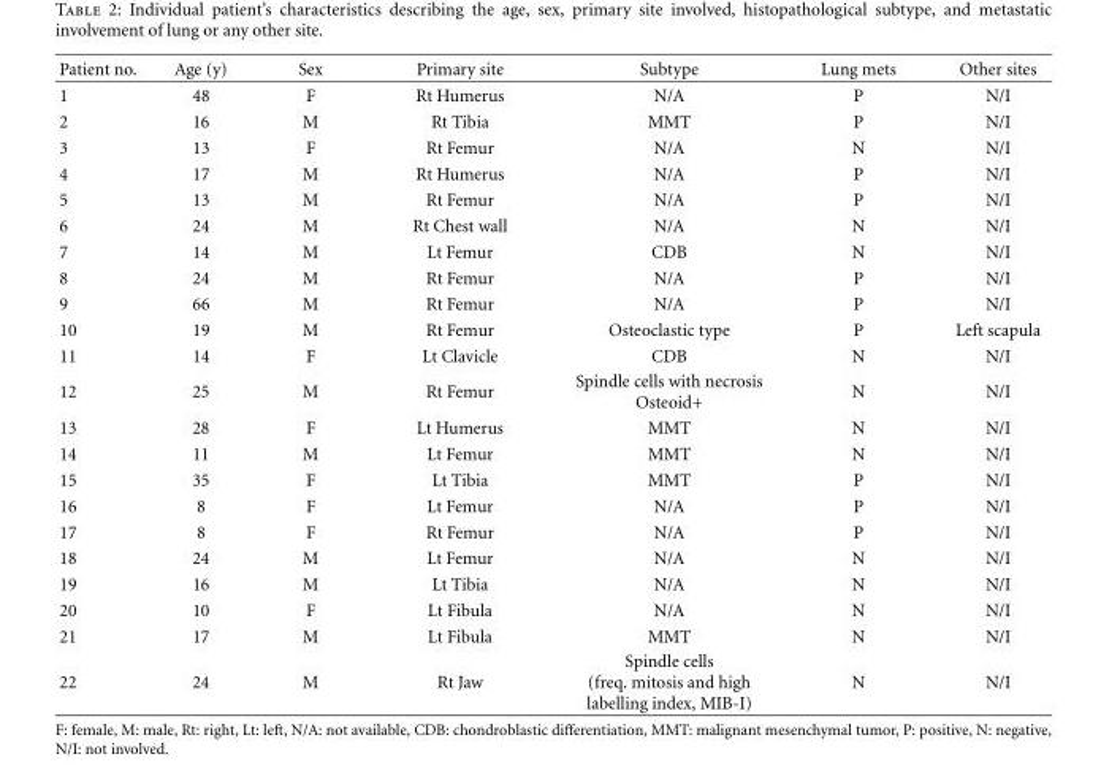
<table><thead><tr><td>Patient no.</td><td>Age (y)</td><td>Sex</td><td>Primary site</td><td>Subtype</td><td>Lung mets</td><td>Other sites</td></tr></thead><tbody><tr><td>1</td><td>48</td><td>F</td><td>Rt Humerus</td><td>N/A</td><td>P</td><td>N/I</td></tr><tr><td>2</td><td>16</td><td>M</td><td>Rt Tibia</td><td>MMT</td><td>P</td><td>N/I</td></tr><tr><td>3</td><td>13</td><td>F</td><td>Rt Femur</td><td>N/A</td><td>N</td><td>N/I</td></tr><tr><td>4</td><td>17</td><td>M</td><td>Rt Humerus</td><td>N/A</td><td>P</td><td>N/I</td></tr><tr><td>5</td><td>13</td><td>M</td><td>Rt Femur</td><td>N/A</td><td>P</td><td>N/I</td></tr><tr><td>6</td><td>24</td><td>M</td><td>Rt Chest wall</td><td>N/A</td><td>N</td><td>N/I</td></tr><tr><td>7</td><td>14</td><td>M</td><td>Lt Femur</td><td>CDB</td><td>N</td><td>N/I</td></tr><tr><td>8</td><td>24</td><td>M</td><td>Rt Femur</td><td>N/A</td><td>P</td><td>N/I</td></tr><tr><td>9</td><td>66</td><td>M</td><td>Rt Femur</td><td>N/A</td><td>P</td><td>N/I</td></tr><tr><td>10</td><td>19</td><td>M</td><td>Rt Femur</td><td>Osteoclastic type</td><td>P</td><td>Left scapula</td></tr><tr><td>11</td><td>14</td><td>F</td><td>Lt Clavicle</td><td>CDB</td><td>N</td><td>N/I</td></tr><tr><td>12</td><td>25</td><td>M</td><td>Rt Femur</td><td>Spindle cells with necrosis Osteoid+</td><td>N</td><td>N/I</td></tr><tr><td>13</td><td>28</td><td>F</td><td>Lt Humerus</td><td>MMT</td><td>N</td><td>N/I</td></tr><tr><td>14</td><td>11</td><td>M</td><td>Lt Femur</td><td>MMT</td><td>N</td><td>N/I</td></tr><tr><td>15</td><td>35</td><td>F</td><td>Lt Tibia</td><td>MMT</td><td>P</td><td>N/I</td></tr><tr><td>16</td><td>8</td><td>F</td><td>Lt Femur</td><td>N/A</td><td>P</td><td>N/I</td></tr><tr><td>17</td><td>8</td><td>F</td><td>Rt Femur</td><td>N/A</td><td>P</td><td>N/I</td></tr><tr><td>18</td><td>24</td><td>M</td><td>Lt Femur</td><td>N/A</td><td>N</td><td>N/I</td></tr><tr><td>19</td><td>16</td><td>M</td><td>Lt Tibia</td><td>N/A</td><td>N</td><td>N/I</td></tr><tr><td>20</td><td>10</td><td>F</td><td>Lt Fibula</td><td>N/A</td><td>N</td><td>N/I</td></tr><tr><td>21</td><td>17</td><td>M</td><td>Lt Fibula</td><td>MMT</td><td>N</td><td>N/I</td></tr><tr><td>22</td><td>24</td><td>M</td><td>Rt Jaw</td><td>Spindle cells (freq. mitosis and high labelling index, MIB-I)</td><td>N</td><td>N/I</td></tr></tbody></table>